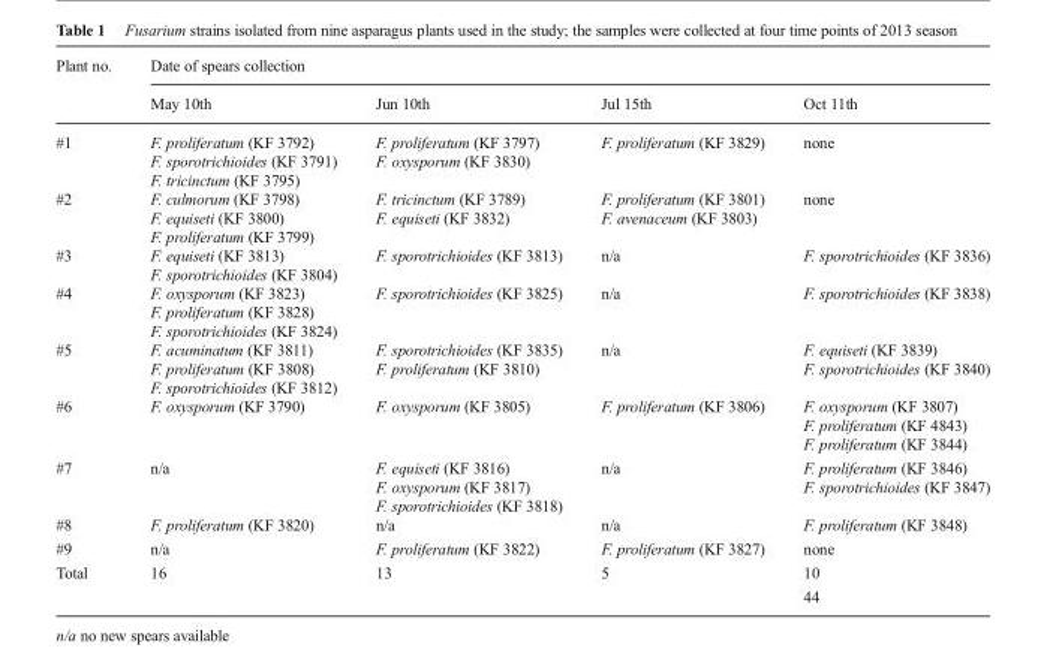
<table><thead><tr><td rowspan="2">Plant no.</td><td colspan="4">Date of spears collection</td></tr><tr><td>May 10th</td><td>Jun 10th</td><td>Jul 15th</td><td>Oct 11th</td></tr></thead><tbody><tr><td>#1</td><td>F. proliferatum (KF 3792) F. sporotrichioides (KF 3791) F. tricinctum (KF 3795)</td><td>F. proliferatum (KF 3797) F. oxysporum (KF 3830)</td><td>F. proliferatum (KF 3829)</td><td>none</td></tr><tr><td>#2</td><td>F. culmorum (KF 3798) F. equiseti (KF 3800) F. proliferatum (KF 3799)</td><td>F. tricinctum (KF 3789) F. equiseti (KF 3832)</td><td>F. proliferatum (KF 3801) F. avenaceum (KF 3803)</td><td>none</td></tr><tr><td>#3</td><td>F. equiseti (KF 3813) F. sporotrichioides (KF 3804)</td><td>F. sporotrichioides (KF 3813)</td><td>n/a</td><td>F. sporotrichioides (KF 3836)</td></tr><tr><td>#4</td><td>F. oxysporum (KF 3823) F. proliferatum (KF 3828) F. sporotrichioides (KF 3824)</td><td>F. sporotrichioides (KF 3825)</td><td>n/a</td><td>F. sporotrichioides (KF 3838)</td></tr><tr><td>#5</td><td>F. acuminatum (KF 3811) F. proliferatum (KF 3808) F. sporotrichioides (KF 3812)</td><td>F. sporotrichioides (KF 3835) F. proliferatum (KF 3810)</td><td>n/a</td><td>F. equiseti (KF 3839) F. sporotrichioides (KF 3840)</td></tr><tr><td>#6</td><td>F. oxysporum (KF 3790)</td><td>F. oxysporum (KF 3805)</td><td>F. proliferatum (KF 3806)</td><td>F. oxysporum (KF 3807) F. proliferatum (KF 4843) F. proliferatum (KF 3844)</td></tr><tr><td>#7</td><td>n/a</td><td>F. equiseti (KF 3816) F. oxysporum (KF 3817) F. sporotrichioides (KF 3818)</td><td>n/a</td><td>F. proliferatum (KF 3846) F. sporotrichioides (KF 3847)</td></tr><tr><td>#8</td><td>F. proliferatum (KF 3820)</td><td>n/a</td><td>n/a</td><td>F. proliferatum (KF 3848)</td></tr><tr><td>#9</td><td>n/a</td><td>F. proliferatum (KF 3822)</td><td>F. proliferatum (KF 3827)</td><td>none</td></tr><tr><td rowspan="2">Total</td><td>16</td><td>13</td><td>5</td><td>10</td></tr><tr><td></td><td></td><td></td><td>44</td></tr></tbody></table>